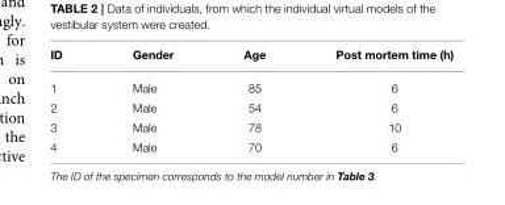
<table><thead><tr><td>ID</td><td>Gender</td><td>Age</td><td>Post mortem time (h)</td></tr></thead><tbody><tr><td>1</td><td>Male</td><td>85</td><td>6</td></tr><tr><td>2</td><td>Male</td><td>54</td><td>6</td></tr><tr><td>3</td><td>Male</td><td>78</td><td>10</td></tr><tr><td>4</td><td>Male</td><td>70</td><td>6</td></tr></tbody></table>